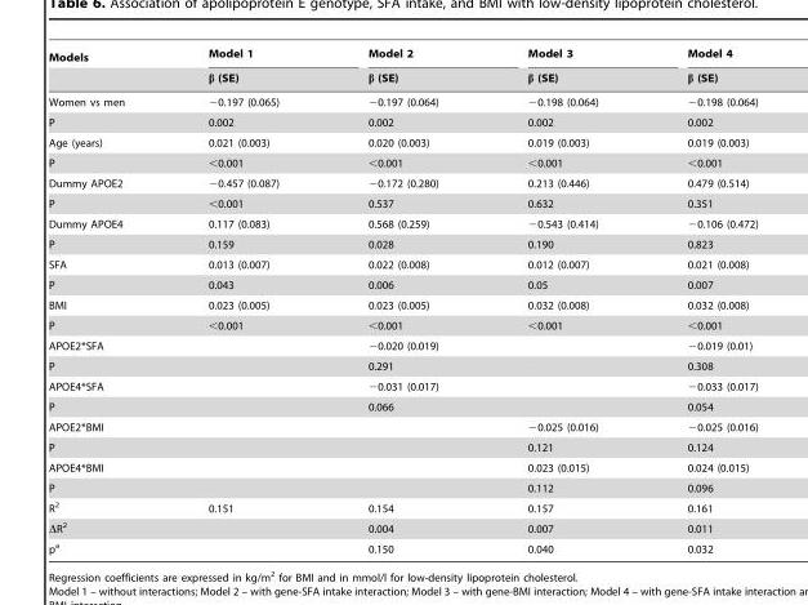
<table><thead><tr><td rowspan="2">Models</td><td rowspan="2">Model 1 β (SE)</td><td rowspan="2">Model 2 β (SE)</td><td rowspan="2">Model 3 β (SE)</td><td rowspan="2">Model 4 β (SE)</td></tr><tr></tr></thead><tbody><tr><td>Women vs men</td><td>−0.197 (0.065)</td><td>−0.197 (0.064)</td><td>−0.198 (0.064)</td><td>−0.198 (0.064)</td></tr><tr><td>P</td><td>0.002</td><td>0.002</td><td>0.002</td><td>0.002</td></tr><tr><td>Age (years)</td><td>0.021 (0.003)</td><td>0.020 (0.003)</td><td>0.019 (0.003)</td><td>0.019 (0.003)</td></tr><tr><td>P</td><td>&lt;0.001</td><td>&lt;0.001</td><td>&lt;0.001</td><td>&lt;0.001</td></tr><tr><td>Dummy APOE2</td><td>−0.457 (0.087)</td><td>−0.172 (0.280)</td><td>0.213 (0.446)</td><td>0.479 (0.514)</td></tr><tr><td>P</td><td>&lt;0.001</td><td>0.537</td><td>0.632</td><td>0.351</td></tr><tr><td>Dummy APOE4</td><td>0.117 (0.083)</td><td>0.568 (0.259)</td><td>−0.543 (0.414)</td><td>−0.106 (0.472)</td></tr><tr><td>P</td><td>0.159</td><td>0.028</td><td>0.190</td><td>0.823</td></tr><tr><td>SFA</td><td>0.013 (0.007)</td><td>0.022 (0.008)</td><td>0.012 (0.007)</td><td>0.021 (0.008)</td></tr><tr><td>P</td><td>0.043</td><td>0.006</td><td>0.05</td><td>0.007</td></tr><tr><td>BMI</td><td>0.023 (0.005)</td><td>0.023 (0.005)</td><td>0.032 (0.008)</td><td>0.032 (0.008)</td></tr><tr><td>P</td><td>&lt;0.001</td><td>&lt;0.001</td><td>&lt;0.001</td><td>&lt;0.001</td></tr><tr><td>APOE2*SFA</td><td></td><td>−0.020 (0.019)</td><td></td><td>−0.019 (0.01)</td></tr><tr><td>P</td><td></td><td>0.291</td><td></td><td>0.308</td></tr><tr><td>APOE4*SFA</td><td></td><td>−0.031 (0.017)</td><td></td><td>−0.033 (0.017)</td></tr><tr><td>P</td><td></td><td>0.066</td><td></td><td>0.054</td></tr><tr><td>APOE2*BMI</td><td></td><td></td><td>−0.025 (0.016)</td><td>−0.025 (0.016)</td></tr><tr><td>P</td><td></td><td></td><td>0.121</td><td>0.124</td></tr><tr><td>APOE4*BMI</td><td></td><td></td><td>0.023 (0.015)</td><td>0.024 (0.015)</td></tr><tr><td>P</td><td></td><td></td><td>0.112</td><td>0.096</td></tr><tr><td>R<sup>2</sup></td><td>0.151</td><td>0.154</td><td>0.157</td><td>0.161</td></tr><tr><td>ΔR<sup>2</sup></td><td></td><td>0.004</td><td>0.007</td><td>0.011</td></tr><tr><td>p<sup>a</sup></td><td></td><td>0.150</td><td>0.040</td><td>0.032</td></tr></tbody></table>